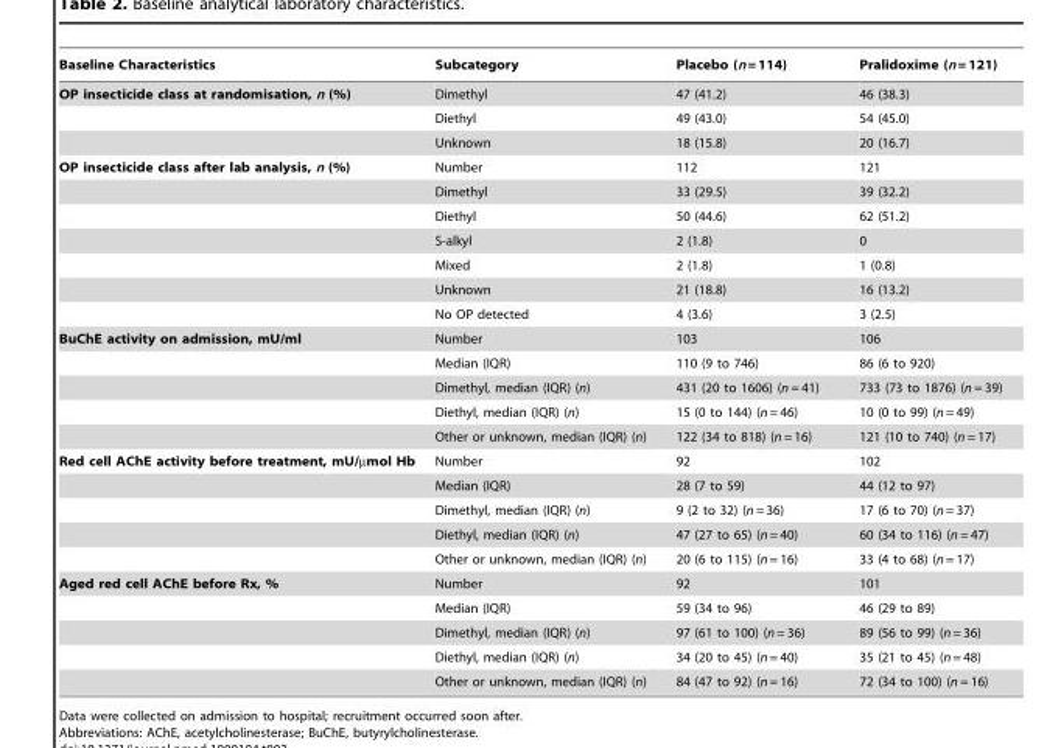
<table><thead><tr><td>Baseline Characteristics</td><td>Subcategory</td><td>Placebo (n = 114)</td><td>Pralidoxime (n = 121)</td></tr></thead><tbody><tr><td rowspan="3">OP insecticide class at randomisation, n (%)</td><td>Dimethyl</td><td>47 (41.2)</td><td>46 (38.3)</td></tr><tr><td>Diethyl</td><td>49 (43.0)</td><td>54 (45.0)</td></tr><tr><td>Unknown</td><td>18 (15.8)</td><td>20 (16.7)</td></tr><tr><td rowspan="7">OP insecticide class after lab analysis, n (%)</td><td>Number</td><td>112</td><td>121</td></tr><tr><td>Dimethyl</td><td>33 (29.5)</td><td>39 (32.2)</td></tr><tr><td>Diethyl</td><td>50 (44.6)</td><td>62 (51.2)</td></tr><tr><td>S-alkyl</td><td>2 (1.8)</td><td>0</td></tr><tr><td>Mixed</td><td>2 (1.8)</td><td>1 (0.8)</td></tr><tr><td>Unknown</td><td>21 (18.8)</td><td>16 (13.2)</td></tr><tr><td>No OP detected</td><td>4 (3.6)</td><td>3 (2.5)</td></tr><tr><td rowspan="5">BuChE activity on admission, mU/ml</td><td>Number</td><td>103</td><td>106</td></tr><tr><td>Median (IQR)</td><td>110 (9 to 746)</td><td>86 (6 to 920)</td></tr><tr><td>Dimethyl, median (IQR) (n)</td><td>431 (20 to 1606) (n = 41)</td><td>733 (73 to 1876) (n = 39)</td></tr><tr><td>Diethyl, median (IQR) (n)</td><td>15 (0 to 144) (n = 46)</td><td>10 (0 to 99) (n = 49)</td></tr><tr><td>Other or unknown, median (IQR) (n)</td><td>122 (34 to 818) (n = 16)</td><td>121 (10 to 740) (n = 17)</td></tr><tr><td rowspan="5">Red cell AChE activity before treatment, mU/µmol Hb</td><td>Number</td><td>92</td><td>102</td></tr><tr><td>Median (IQR)</td><td>28 (7 to 59)</td><td>44 (12 to 97)</td></tr><tr><td>Dimethyl, median (IQR) (n)</td><td>9 (2 to 32) (n = 36)</td><td>17 (6 to 70) (n = 37)</td></tr><tr><td>Diethyl, median (IQR) (n)</td><td>47 (27 to 65) (n = 40)</td><td>60 (34 to 116) (n = 47)</td></tr><tr><td>Other or unknown, median (IQR) (n)</td><td>20 (6 to 115) (n = 16)</td><td>33 (4 to 68) (n = 17)</td></tr><tr><td rowspan="5">Aged red cell AChE before Rx, %</td><td>Number</td><td>92</td><td>101</td></tr><tr><td>Median (IQR)</td><td>59 (34 to 96)</td><td>46 (29 to 89)</td></tr><tr><td>Dimethyl, median (IQR) (n)</td><td>97 (61 to 100) (n = 36)</td><td>89 (56 to 99) (n = 36)</td></tr><tr><td>Diethyl, median (IQR) (n)</td><td>34 (20 to 45) (n = 40)</td><td>35 (21 to 45) (n = 48)</td></tr><tr><td>Other or unknown, median (IQR) (n)</td><td>84 (47 to 92) (n = 16)</td><td>72 (34 to 100) (n = 16)</td></tr></tbody></table>